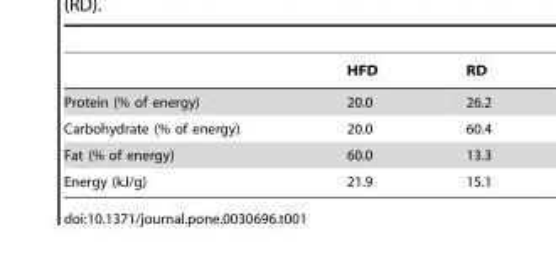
<table><thead><tr><td></td><td>HFD</td><td>RD</td></tr></thead><tbody><tr><td>Protein (% of energy)</td><td>20.0</td><td>26.2</td></tr><tr><td>Carbohydrate (% of energy)</td><td>20.0</td><td>60.4</td></tr><tr><td>Fat (% of energy)</td><td>60.0</td><td>13.3</td></tr><tr><td>Energy (kJ/g)</td><td>21.9</td><td>15.1</td></tr></tbody></table>